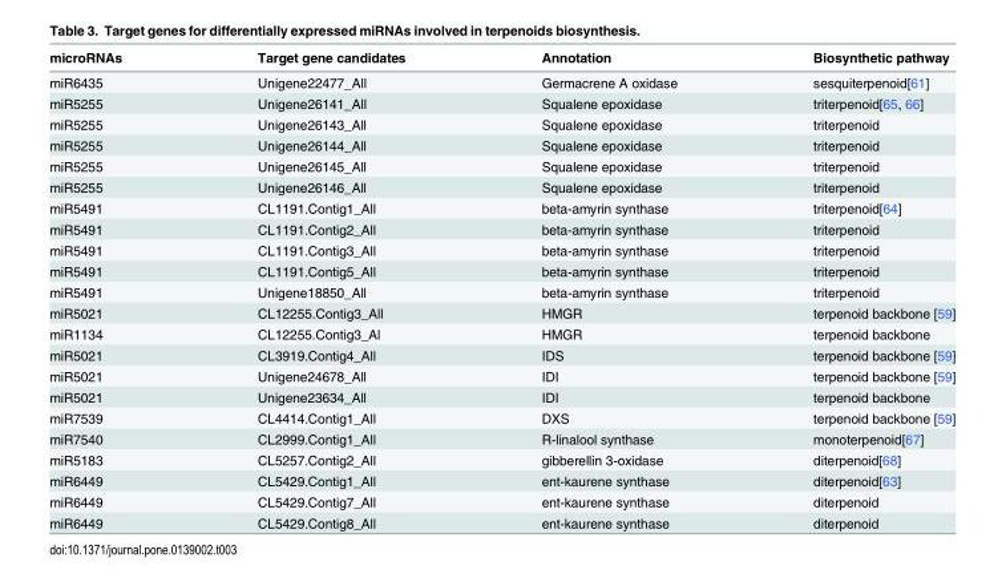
<table><thead><tr><td>microRNAs</td><td>Target gene candidates</td><td>Annotation</td><td>Biosynthetic pathway</td></tr></thead><tbody><tr><td>miR6435</td><td>Unigene22477_All</td><td>Germacrene A oxidase</td><td>sesquiterpenoid[61]</td></tr><tr><td>miR5255</td><td>Unigene26141_All</td><td>Squalene epoxidase</td><td>triterpenoid[65, 66]</td></tr><tr><td>miR5255</td><td>Unigene26143_All</td><td>Squalene epoxidase</td><td>triterpenoid</td></tr><tr><td>miR5255</td><td>Unigene26144_All</td><td>Squalene epoxidase</td><td>triterpenoid</td></tr><tr><td>miR5255</td><td>Unigene26145_All</td><td>Squalene epoxidase</td><td>triterpenoid</td></tr><tr><td>miR5255</td><td>Unigene26146_All</td><td>Squalene epoxidase</td><td>triterpenoid</td></tr><tr><td>miR5491</td><td>CL1191.Contig1_All</td><td>beta-amyrin synthase</td><td>triterpenoid[64]</td></tr><tr><td>miR5491</td><td>CL1191.Contig2_All</td><td>beta-amyrin synthase</td><td>triterpenoid</td></tr><tr><td>miR5491</td><td>CL1191.Contig3_All</td><td>beta-amyrin synthase</td><td>triterpenoid</td></tr><tr><td>miR5491</td><td>CL1191.Contig5_All</td><td>beta-amyrin synthase</td><td>triterpenoid</td></tr><tr><td>miR5491</td><td>Unigene18850_All</td><td>beta-amyrin synthase</td><td>triterpenoid</td></tr><tr><td>miR5021</td><td>CL12255.Contig3_All</td><td>HMGR</td><td>terpenoid backbone [59]</td></tr><tr><td>miR1134</td><td>CL12255.Contig3_Al</td><td>HMGR</td><td>terpenoid backbone</td></tr><tr><td>miR5021</td><td>CL3919.Contig4_All</td><td>IDS</td><td>terpenoid backbone [59]</td></tr><tr><td>miR5021</td><td>Unigene24678_All</td><td>IDI</td><td>terpenoid backbone [59]</td></tr><tr><td>miR5021</td><td>Unigene23634_All</td><td>IDI</td><td>terpenoid backbone</td></tr><tr><td>miR7539</td><td>CL4414.Contig1_All</td><td>DXS</td><td>terpenoid backbone [59]</td></tr><tr><td>miR7540</td><td>CL2999.Contig1_All</td><td>R-linalool synthase</td><td>monoterpenoid[67]</td></tr><tr><td>miR5183</td><td>CL5257.Contig2_All</td><td>gibberellin 3-oxidase</td><td>diterpenoid[68]</td></tr><tr><td>miR6449</td><td>CL5429.Contig1_All</td><td>ent-kaurene synthase</td><td>diterpenoid[63]</td></tr><tr><td>miR6449</td><td>CL5429.Contig7_All</td><td>ent-kaurene synthase</td><td>diterpenoid</td></tr><tr><td>miR6449</td><td>CL5429.Contig8_All</td><td>ent-kaurene synthase</td><td>diterpenoid</td></tr></tbody></table>